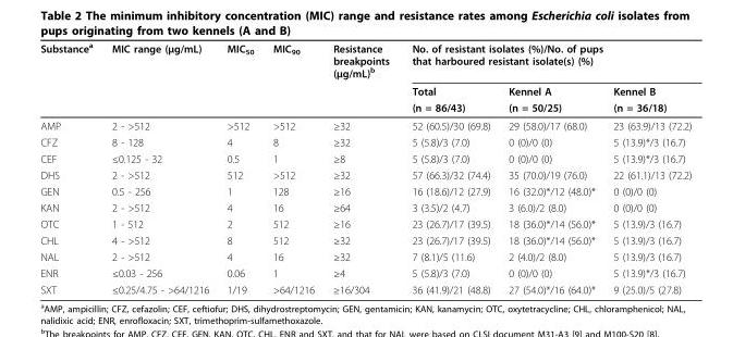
<table><thead><tr><td rowspan="3">Substance<sup>a</sup></td><td rowspan="3">MIC range (μg/mL)</td><td rowspan="3">MIC<sub>50</sub></td><td rowspan="3">MIC<sub>90</sub></td><td rowspan="3">Resistance breakpoints (μg/mL)<sup>b</sup></td><td colspan="3">No. of resistant isolates (%)/No. of pups that harboured resistant isolate(s) (%)</td></tr><tr><td rowspan="2">Total (n = 86/43)</td><td rowspan="2">Kennel A (n = 50/25)</td><td rowspan="2">Kennel B (n = 36/18)</td></tr><tr></tr></thead><tbody><tr><td>AMP</td><td>2 - &gt;512</td><td>&gt;512</td><td>&gt;512</td><td>≥32</td><td>52 (60.5)/30 (69.8)</td><td>29 (58.0)/17 (68.0)</td><td>23 (63.9)/13 (72.2)</td></tr><tr><td>CFZ</td><td>8 - 128</td><td>4</td><td>8</td><td>≥32</td><td>5 (5.8)/3 (7.0)</td><td>0 (0)/0 (0)</td><td>5 (13.9)*/3 (16.7)</td></tr><tr><td>CEF</td><td>≤0.125 - 32</td><td>0.5</td><td>1</td><td>≥8</td><td>5 (5.8)/3 (7.0)</td><td>0 (0)/0 (0)</td><td>5 (13.9)*/3 (16.7)</td></tr><tr><td>DHS</td><td>2 - &gt;512</td><td>512</td><td>&gt;512</td><td>≥32</td><td>57 (66.3)/32 (74.4)</td><td>35 (70.0)/19 (76.0)</td><td>22 (61.1)/13 (72.2)</td></tr><tr><td>GEN</td><td>0.5 - 256</td><td>1</td><td>128</td><td>≥16</td><td>16 (18.6)/12 (27.9)</td><td>16 (32.0)*/12 (48.0)*</td><td>0 (0)/0 (0)</td></tr><tr><td>KAN</td><td>2 - &gt;512</td><td>4</td><td>16</td><td>≥64</td><td>3 (3.5)/2 (4.7)</td><td>3 (6.0)/2 (8.0)</td><td>0 (0)/0 (0)</td></tr><tr><td>OTC</td><td>1 - 512</td><td>2</td><td>512</td><td>≥16</td><td>23 (26.7)/17 (39.5)</td><td>18 (36.0)*/14 (56.0)*</td><td>5 (13.9)/3 (16.7)</td></tr><tr><td>CHL</td><td>4 - &gt;512</td><td>8</td><td>512</td><td>≥32</td><td>23 (26.7)/17 (39.5)</td><td>18 (36.0)*/14 (56.0)*</td><td>5 (13.9)/3 (16.7)</td></tr><tr><td>NAL</td><td>2 - &gt;512</td><td>4</td><td>16</td><td>≥32</td><td>7 (8.1)/5 (11.6)</td><td>2 (4.0)/2 (8.0)</td><td>5 (13.9)/3 (16.7)</td></tr><tr><td>ENR</td><td>≤0.03 - 256</td><td>0.06</td><td>1</td><td>≥4</td><td>5 (5.8)/3 (7.0)</td><td>0 (0)/0 (0)</td><td>5 (13.9)*/3 (16.7)</td></tr><tr><td>SXT</td><td>≤0.25/4.75 - &gt;64/1216</td><td>1/19</td><td>&gt;64/1216</td><td>≥16/304</td><td>36 (41.9)/21 (48.8)</td><td>27 (54.0)*/16 (64.0)*</td><td>9 (25.0)/5 (27.8)</td></tr></tbody></table>